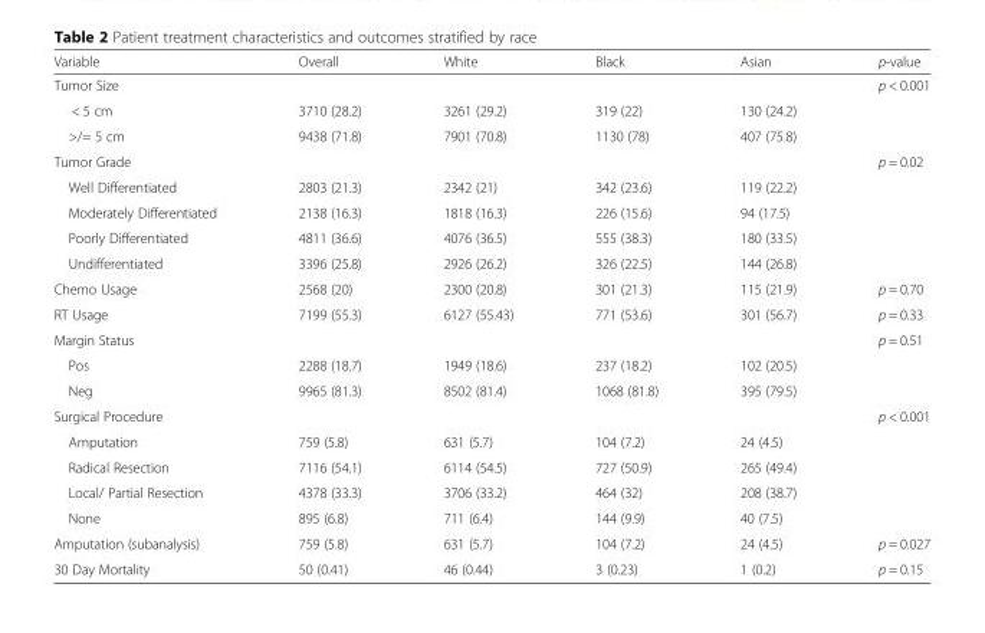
<table><thead><tr><td>Variable</td><td>Overall</td><td>White</td><td>Black</td><td>Asian</td><td>p-value</td></tr></thead><tbody><tr><td>Tumor Size</td><td></td><td></td><td></td><td></td><td>p &lt; 0.001</td></tr><tr><td>&lt; 5 cm</td><td>3710 (28.2)</td><td>3261 (29.2)</td><td>319 (22)</td><td>130 (24.2)</td><td></td></tr><tr><td>&gt;/= 5 cm</td><td>9438 (71.8)</td><td>7901 (70.8)</td><td>1130 (78)</td><td>407 (75.8)</td><td></td></tr><tr><td>Tumor Grade</td><td></td><td></td><td></td><td></td><td>p = 0.02</td></tr><tr><td>Well Differentiated</td><td>2803 (21.3)</td><td>2342 (21)</td><td>342 (23.6)</td><td>119 (22.2)</td><td></td></tr><tr><td>Moderately Differentiated</td><td>2138 (16.3)</td><td>1818 (16.3)</td><td>226 (15.6)</td><td>94 (17.5)</td><td></td></tr><tr><td>Poorly Differentiated</td><td>4811 (36.6)</td><td>4076 (36.5)</td><td>555 (38.3)</td><td>180 (33.5)</td><td></td></tr><tr><td>Undifferentiated</td><td>3396 (25.8)</td><td>2926 (26.2)</td><td>326 (22.5)</td><td>144 (26.8)</td><td></td></tr><tr><td>Chemo Usage</td><td>2568 (20)</td><td>2300 (20.8)</td><td>301 (21.3)</td><td>115 (21.9)</td><td>p = 0.70</td></tr><tr><td>RT Usage</td><td>7199 (55.3)</td><td>6127 (55.43)</td><td>771 (53.6)</td><td>301 (56.7)</td><td>p = 0.33</td></tr><tr><td>Margin Status</td><td></td><td></td><td></td><td></td><td>p = 0.51</td></tr><tr><td>Pos</td><td>2288 (18.7)</td><td>1949 (18.6)</td><td>237 (18.2)</td><td>102 (20.5)</td><td></td></tr><tr><td>Neg</td><td>9965 (81.3)</td><td>8502 (81.4)</td><td>1068 (81.8)</td><td>395 (79.5)</td><td></td></tr><tr><td>Surgical Procedure</td><td></td><td></td><td></td><td></td><td>p &lt; 0.001</td></tr><tr><td>Amputation</td><td>759 (5.8)</td><td>631 (5.7)</td><td>104 (7.2)</td><td>24 (4.5)</td><td></td></tr><tr><td>Radical Resection</td><td>7116 (54.1)</td><td>6114 (54.5)</td><td>727 (50.9)</td><td>265 (49.4)</td><td></td></tr><tr><td>Local/ Partial Resection</td><td>4378 (33.3)</td><td>3706 (33.2)</td><td>464 (32)</td><td>208 (38.7)</td><td></td></tr><tr><td>None</td><td>895 (6.8)</td><td>711 (6.4)</td><td>144 (9.9)</td><td>40 (7.5)</td><td></td></tr><tr><td>Amputation (subanalysis)</td><td>759 (5.8)</td><td>631 (5.7)</td><td>104 (7.2)</td><td>24 (4.5)</td><td>p = 0.027</td></tr><tr><td>30 Day Mortality</td><td>50 (0.41)</td><td>46 (0.44)</td><td>3 (0.23)</td><td>1 (0.2)</td><td>p = 0.15</td></tr></tbody></table>